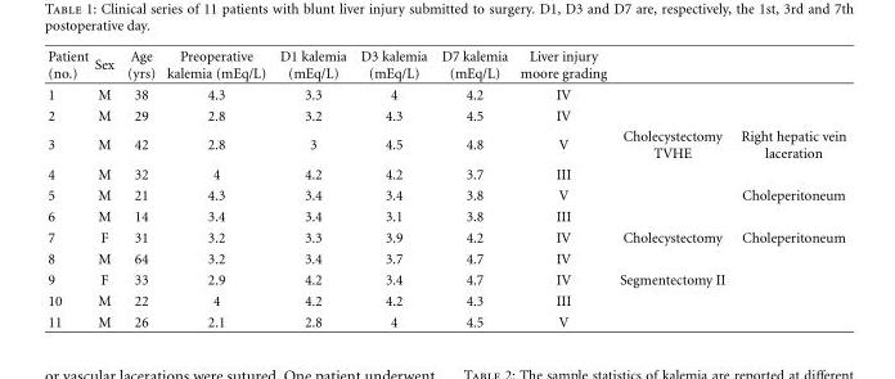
<table><thead><tr><td>Patient (no.)</td><td>Sex</td><td>Age (yrs)</td><td>Preoperative kalemia (mEq/L)</td><td>D1 kalemia (mEq/L)</td><td>D3 kalemia (mEq/L)</td><td>D7 kalemia (mEq/L)</td><td>Liver injury moore grading</td><td></td><td></td></tr></thead><tbody><tr><td>1</td><td>M</td><td>38</td><td>4.3</td><td>3.3</td><td>4</td><td>4.2</td><td>IV</td><td></td><td></td></tr><tr><td>2</td><td>M</td><td>29</td><td>2.8</td><td>3.2</td><td>4.3</td><td>4.5</td><td>IV</td><td></td><td></td></tr><tr><td>3</td><td>M</td><td>42</td><td>2.8</td><td>3</td><td>4.5</td><td>4.8</td><td>V</td><td>Cholecystectomy TVHE</td><td>Right hepatic vein laceration</td></tr><tr><td>4</td><td>M</td><td>32</td><td>4</td><td>4.2</td><td>4.2</td><td>3.7</td><td>III</td><td></td><td></td></tr><tr><td>5</td><td>M</td><td>21</td><td>4.3</td><td>3.4</td><td>3.4</td><td>3.8</td><td>V</td><td></td><td>Choleperitoneum</td></tr><tr><td>6</td><td>M</td><td>14</td><td>3.4</td><td>3.4</td><td>3.1</td><td>3.8</td><td>III</td><td></td><td></td></tr><tr><td>7</td><td>F</td><td>31</td><td>3.2</td><td>3.3</td><td>3.9</td><td>4.2</td><td>IV</td><td>Cholecystectomy</td><td>Choleperitoneum</td></tr><tr><td>8</td><td>M</td><td>64</td><td>3.2</td><td>3.4</td><td>3.7</td><td>4.7</td><td>IV</td><td></td><td></td></tr><tr><td>9</td><td>F</td><td>33</td><td>2.9</td><td>4.2</td><td>3.4</td><td>4.7</td><td>IV</td><td>Segmentectomy II</td><td></td></tr><tr><td>10</td><td>M</td><td>22</td><td>4</td><td>4.2</td><td>4.2</td><td>4.3</td><td>III</td><td></td><td></td></tr><tr><td>11</td><td>M</td><td>26</td><td>2.1</td><td>2.8</td><td>4</td><td>4.5</td><td>V</td><td></td><td></td></tr></tbody></table>